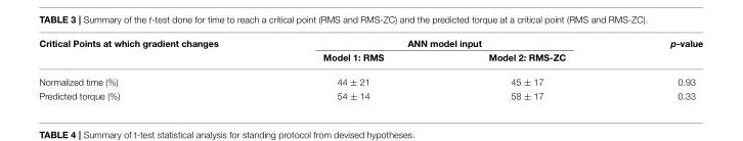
<table><thead><tr><td rowspan="2">Critical Points at which gradient changes</td><td colspan="2">ANN model input</td><td rowspan="2">p-value</td></tr><tr><td>Model 1: RMS</td><td>Model 2: RMS-ZC</td></tr></thead><tbody><tr><td>Normalized time (%)</td><td>44 ± 21</td><td>45 ± 17</td><td>0.93</td></tr><tr><td>Predicted torque (%)</td><td>54 ± 14</td><td>58 ± 17</td><td>0.33</td></tr></tbody></table>